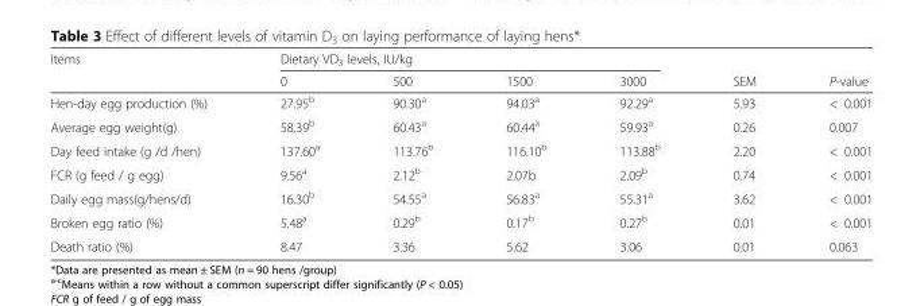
<table><thead><tr><td rowspan="2">Items</td><td colspan="4">Dietary VD<sub>3</sub> levels, IU/kg</td><td rowspan="2">SEM</td><td rowspan="2">P-value</td></tr><tr><td>0</td><td>500</td><td>1500</td><td>3000</td></tr></thead><tbody><tr><td>Hen-day egg production (%)</td><td>27.95<sup>b</sup></td><td>90.30<sup>a</sup></td><td>94.03<sup>a</sup></td><td>92.29<sup>a</sup></td><td>5.93</td><td>&lt; 0.001</td></tr><tr><td>Average egg weight(g)</td><td>58.39<sup>b</sup></td><td>60.43<sup>a</sup></td><td>60.44<sup>a</sup></td><td>59.93<sup>a</sup></td><td>0.26</td><td>0.007</td></tr><tr><td>Day feed intake (g /d /hen)</td><td>137.60<sup>a</sup></td><td>113.76<sup>b</sup></td><td>116.10<sup>b</sup></td><td>113.88<sup>b</sup></td><td>2.20</td><td>&lt; 0.001</td></tr><tr><td>FCR (g feed / g egg)</td><td>9.56<sup>a</sup></td><td>2.12<sup>b</sup></td><td>2.07b</td><td>2.09<sup>b</sup></td><td>0.74</td><td>&lt; 0.001</td></tr><tr><td>Daily egg mass(g/hens/d)</td><td>16.30<sup>b</sup></td><td>54.55<sup>a</sup></td><td>56.83<sup>a</sup></td><td>55.31<sup>a</sup></td><td>3.62</td><td>&lt; 0.001</td></tr><tr><td>Broken egg ratio (%)</td><td>5.48<sup>a</sup></td><td>0.29<sup>b</sup></td><td>0.17<sup>b</sup></td><td>0.27<sup>b</sup></td><td>0.01</td><td>&lt; 0.001</td></tr><tr><td>Death ratio (%)</td><td>8.47</td><td>3.36</td><td>5.62</td><td>3.06</td><td>0.01</td><td>0.063</td></tr></tbody></table>